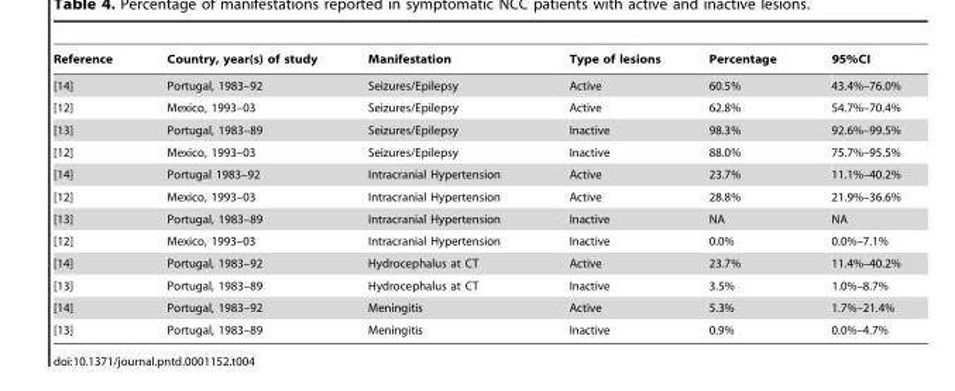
<table><thead><tr><td>Reference</td><td>Country, year(s) of study</td><td>Manifestation</td><td>Type of lesions</td><td>Percentage</td><td>95%CI</td></tr></thead><tbody><tr><td>[14]</td><td>Portugal, 1983–92</td><td>Seizures/Epilepsy</td><td>Active</td><td>60.5%</td><td>43.4%–76.0%</td></tr><tr><td>[12]</td><td>Mexico, 1993–03</td><td>Seizures/Epilepsy</td><td>Active</td><td>62.8%</td><td>54.7%–70.4%</td></tr><tr><td>[13]</td><td>Portugal, 1983–89</td><td>Seizures/Epilepsy</td><td>Inactive</td><td>98.3%</td><td>92.6%–99.5%</td></tr><tr><td>[12]</td><td>Mexico, 1993–03</td><td>Seizures/Epilepsy</td><td>Inactive</td><td>88.0%</td><td>75.7%–95.5%</td></tr><tr><td>[14]</td><td>Portugal 1983–92</td><td>Intracranial Hypertension</td><td>Active</td><td>23.7%</td><td>11.1%–40.2%</td></tr><tr><td>[12]</td><td>Mexico, 1993–03</td><td>Intracranial Hypertension</td><td>Active</td><td>28.8%</td><td>21.9%–36.6%</td></tr><tr><td>[13]</td><td>Portugal, 1983–89</td><td>Intracranial Hypertension</td><td>Inactive</td><td>NA</td><td>NA</td></tr><tr><td>[12]</td><td>Mexico, 1993–03</td><td>Intracranial Hypertension</td><td>Inactive</td><td>0.0%</td><td>0.0%–7.1%</td></tr><tr><td>[14]</td><td>Portugal, 1983–92</td><td>Hydrocephalus at CT</td><td>Active</td><td>23.7%</td><td>11.4%–40.2%</td></tr><tr><td>[13]</td><td>Portugal, 1983–89</td><td>Hydrocephalus at CT</td><td>Inactive</td><td>3.5%</td><td>1.0%–8.7%</td></tr><tr><td>[14]</td><td>Portugal, 1983–92</td><td>Meningitis</td><td>Active</td><td>5.3%</td><td>1.7%–21.4%</td></tr><tr><td>[13]</td><td>Portugal, 1983–89</td><td>Meningitis</td><td>Inactive</td><td>0.9%</td><td>0.0%–4.7%</td></tr></tbody></table>